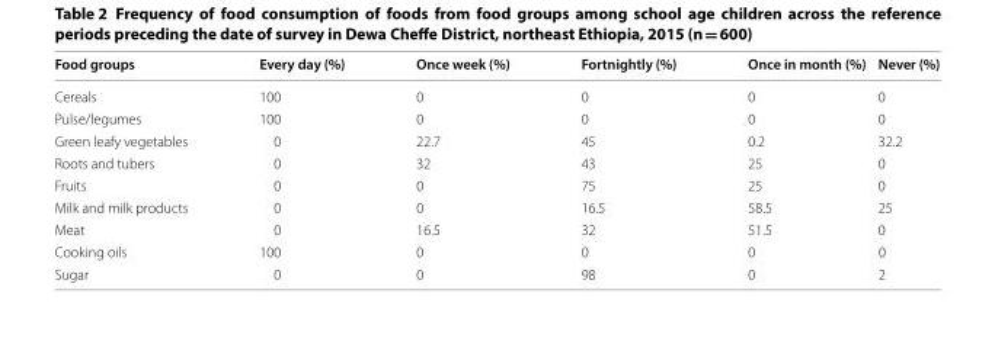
<table><thead><tr><td>Food groups</td><td>Every day (%)</td><td>Once week (%)</td><td>Fortnightly (%)</td><td>Once in month (%)</td><td>Never (%)</td></tr></thead><tbody><tr><td>Cereals</td><td>100</td><td>0</td><td>0</td><td>0</td><td>0</td></tr><tr><td>Pulse/legumes</td><td>100</td><td>0</td><td>0</td><td>0</td><td>0</td></tr><tr><td>Green leafy vegetables</td><td>0</td><td>22.7</td><td>45</td><td>0.2</td><td>32.2</td></tr><tr><td>Roots and tubers</td><td>0</td><td>32</td><td>43</td><td>25</td><td>0</td></tr><tr><td>Fruits</td><td>0</td><td>0</td><td>75</td><td>25</td><td>0</td></tr><tr><td>Milk and milk products</td><td>0</td><td>0</td><td>16.5</td><td>58.5</td><td>25</td></tr><tr><td>Meat</td><td>0</td><td>16.5</td><td>32</td><td>51.5</td><td>0</td></tr><tr><td>Cooking oils</td><td>100</td><td>0</td><td>0</td><td>0</td><td>0</td></tr><tr><td>Sugar</td><td>0</td><td>0</td><td>98</td><td>0</td><td>2</td></tr></tbody></table>